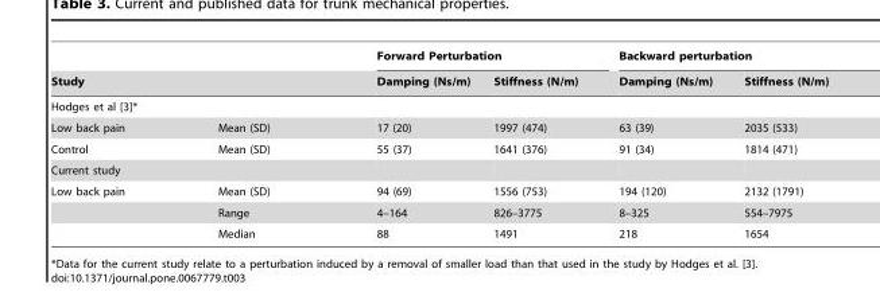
<table><thead><tr><td></td><td></td><td colspan="2">Forward Perturbation</td><td colspan="2">Backward perturbation</td></tr><tr><td colspan="2">Study</td><td>Damping (Ns/m)</td><td>Stiffness (N/m)</td><td>Damping (Ns/m)</td><td>Stiffness (N/m)</td></tr></thead><tbody><tr><td colspan="6">Hodges et al [3]*</td></tr><tr><td>Low back pain</td><td>Mean (SD)</td><td>17 (20)</td><td>1997 (474)</td><td>63 (39)</td><td>2035 (533)</td></tr><tr><td>Control</td><td>Mean (SD)</td><td>55 (37)</td><td>1641 (376)</td><td>91 (34)</td><td>1814 (471)</td></tr><tr><td colspan="6">Current study</td></tr><tr><td rowspan="3">Low back pain</td><td>Mean (SD)</td><td>94 (69)</td><td>1556 (753)</td><td>194 (120)</td><td>2132 (1791)</td></tr><tr><td>Range</td><td>4–164</td><td>826–3775</td><td>8–325</td><td>554–7975</td></tr><tr><td>Median</td><td>88</td><td>1491</td><td>218</td><td>1654</td></tr></tbody></table>